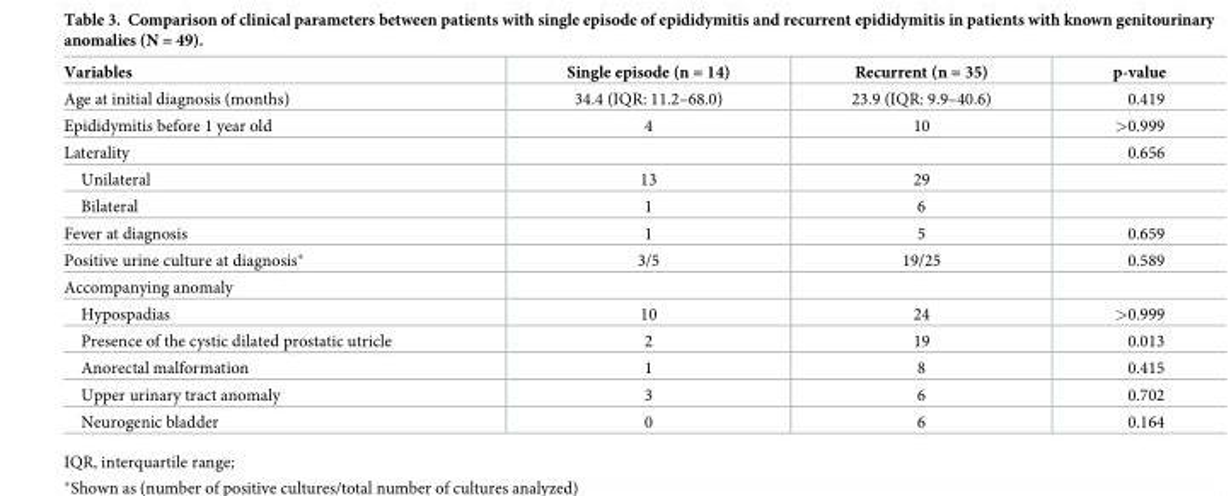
<table><thead><tr><td>Variables</td><td>Single episode (n = 14)</td><td>Recurrent (n = 35)</td><td>p-value</td></tr></thead><tbody><tr><td>Age at initial diagnosis (months)</td><td>34.4 (IQR: 11.2–68.0)</td><td>23.9 (IQR: 9.9–40.6)</td><td>0.419</td></tr><tr><td>Epididymitis before 1 year old</td><td>4</td><td>10</td><td>&gt;0.999</td></tr><tr><td>Laterality</td><td></td><td></td><td>0.656</td></tr><tr><td>Unilateral</td><td>13</td><td>29</td><td></td></tr><tr><td>Bilateral</td><td>1</td><td>6</td><td></td></tr><tr><td>Fever at diagnosis</td><td>1</td><td>5</td><td>0.659</td></tr><tr><td>Positive urine culture at diagnosis*</td><td>3/5</td><td>19/25</td><td>0.589</td></tr><tr><td colspan="4">Accompanying anomaly</td></tr><tr><td>Hypospadias</td><td>10</td><td>24</td><td>&gt;0.999</td></tr><tr><td>Presence of the cystic dilated prostatic utricle</td><td>2</td><td>19</td><td>0.013</td></tr><tr><td>Anorectal malformation</td><td>1</td><td>8</td><td>0.415</td></tr><tr><td>Upper urinary tract anomaly</td><td>3</td><td>6</td><td>0.702</td></tr><tr><td>Neurogenic bladder</td><td>0</td><td>6</td><td>0.164</td></tr></tbody></table>